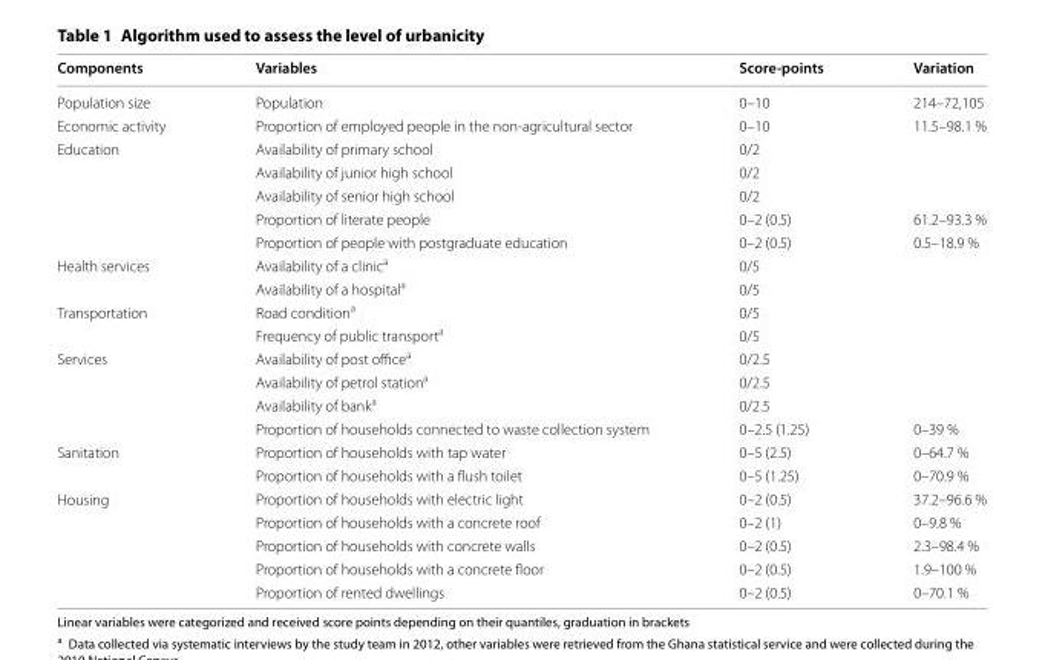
<table><thead><tr><td>Components</td><td>Variables</td><td>Score-points</td><td>Variation</td></tr></thead><tbody><tr><td>Population size</td><td>Population</td><td>0–10</td><td>214–72,105</td></tr><tr><td>Economic activity</td><td>Proportion of employed people in the non‑agricultural sector</td><td>0–10</td><td>11.5–98.1 %</td></tr><tr><td rowspan="5">Education</td><td>Availability of primary school</td><td>0/2</td><td></td></tr><tr><td>Availability of junior high school</td><td>0/2</td><td></td></tr><tr><td>Availability of senior high school</td><td>0/2</td><td></td></tr><tr><td>Proportion of literate people</td><td>0–2 (0.5)</td><td>61.2–93.3 %</td></tr><tr><td>Proportion of people with postgraduate education</td><td>0–2 (0.5)</td><td>0.5–18.9 %</td></tr><tr><td rowspan="2">Health services</td><td>Availability of a clinic<sup>a</sup></td><td>0/5</td><td></td></tr><tr><td>Availability of a hospital<sup>a</sup></td><td>0/5</td><td></td></tr><tr><td rowspan="2">Transportation</td><td>Road condition<sup>a</sup></td><td>0/5</td><td></td></tr><tr><td>Frequency of public transport<sup>a</sup></td><td>0/5</td><td></td></tr><tr><td rowspan="4">Services</td><td>Availability of post office<sup>a</sup></td><td>0/2.5</td><td></td></tr><tr><td>Availability of petrol station<sup>a</sup></td><td>0/2.5</td><td></td></tr><tr><td>Availability of bank<sup>a</sup></td><td>0/2.5</td><td></td></tr><tr><td>Proportion of households connected to waste collection system</td><td>0–2.5 (1.25)</td><td>0–39 %</td></tr><tr><td rowspan="2">Sanitation</td><td>Proportion of households with tap water</td><td>0–5 (2.5)</td><td>0–64.7 %</td></tr><tr><td>Proportion of households with a flush toilet</td><td>0–5 (1.25)</td><td>0–70.9 %</td></tr><tr><td rowspan="5">Housing</td><td>Proportion of households with electric light</td><td>0–2 (0.5)</td><td>37.2–96.6 %</td></tr><tr><td>Proportion of households with a concrete roof</td><td>0–2 (1)</td><td>0–9.8 %</td></tr><tr><td>Proportion of households with concrete walls</td><td>0–2 (0.5)</td><td>2.3–98.4 %</td></tr><tr><td>Proportion of households with a concrete floor</td><td>0–2 (0.5)</td><td>1.9–100 %</td></tr><tr><td>Proportion of rented dwellings</td><td>0–2 (0.5)</td><td>0–70.1 %</td></tr></tbody></table>